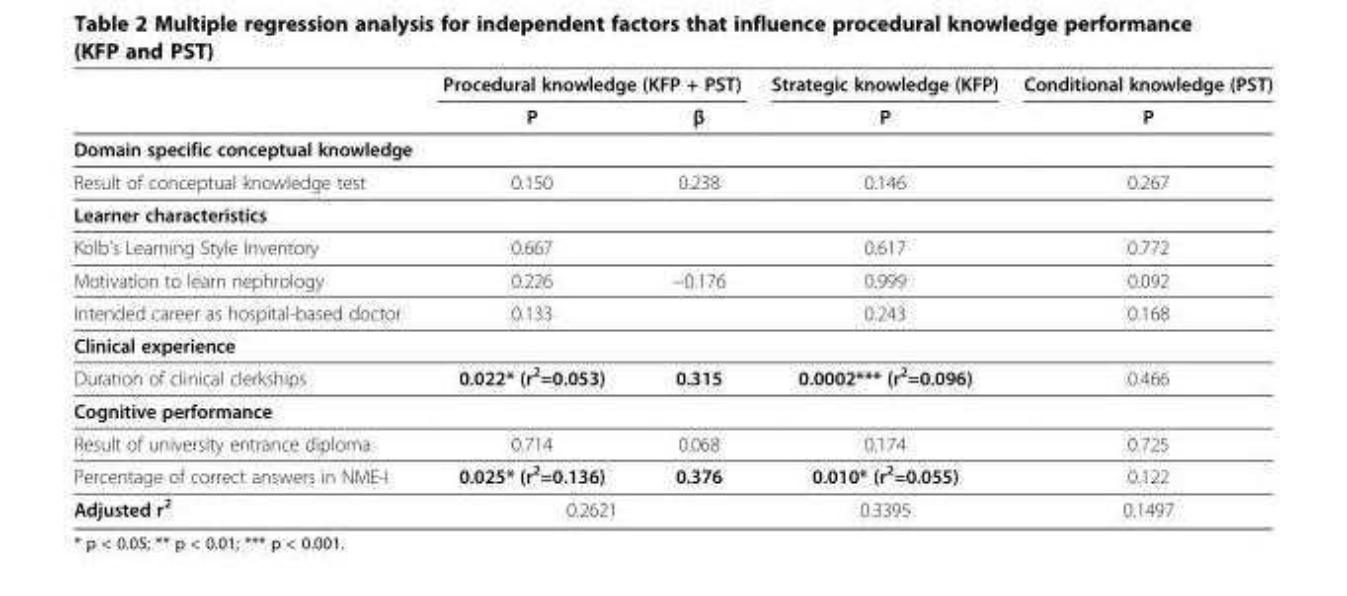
<table><thead><tr><td rowspan="2"></td><td colspan="2">Procedural knowledge (KFP + PST)</td><td rowspan="2">Strategic knowledge (KFP) P</td><td rowspan="2">Conditional knowledge (PST) P</td></tr><tr><td>P</td><td>β</td></tr></thead><tbody><tr><td colspan="5">Domain specific conceptual knowledge</td></tr><tr><td>Result of conceptual knowledge test</td><td>0.150</td><td>0.238</td><td>0.146</td><td>0.267</td></tr><tr><td colspan="5">Learner characteristics</td></tr><tr><td>Kolb’s Learning Style Inventory</td><td>0.667</td><td></td><td>0.617</td><td>0.772</td></tr><tr><td>Motivation to learn nephrology</td><td>0.226</td><td>−0.176</td><td>0.999</td><td>0.092</td></tr><tr><td>Intended career as hospital-based doctor</td><td>0.133</td><td></td><td>0.243</td><td>0.168</td></tr><tr><td colspan="5">Clinical experience</td></tr><tr><td>Duration of clinical clerkships</td><td>0.022* (r<sup>2</sup>=0.053)</td><td>0.315</td><td>0.0002*** (r<sup>2</sup>=0.096)</td><td>0.466</td></tr><tr><td colspan="5">Cognitive performance</td></tr><tr><td>Result of university entrance diploma</td><td>0.714</td><td>0.068</td><td>0.174</td><td>0.725</td></tr><tr><td>Percentage of correct answers in NME-I</td><td>0.025* (r<sup>2</sup>=0.136)</td><td>0.376</td><td>0.010* (r<sup>2</sup>=0.055)</td><td>0.122</td></tr><tr><td>Adjusted r<sup>2</sup></td><td colspan="2">0.2621</td><td>0.3395</td><td>0.1497</td></tr></tbody></table>